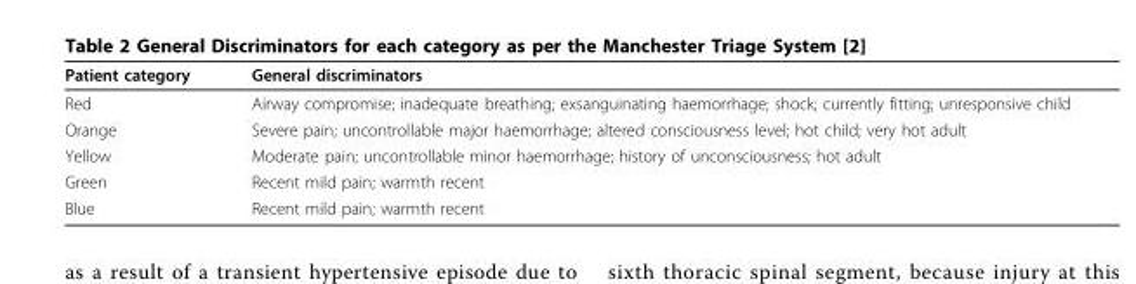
<table><thead><tr><td>Patient category</td><td>General discriminators</td></tr></thead><tbody><tr><td>Red</td><td>Airway compromise; inadequate breathing; exsanguinating haemorrhage; shock; currently fitting; unresponsive child</td></tr><tr><td>Orange</td><td>Severe pain; uncontrollable major haemorrhage; altered consciousness level; hot child; very hot adult</td></tr><tr><td>Yellow</td><td>Moderate pain; uncontrollable minor haemorrhage; history of unconsciousness; hot adult</td></tr><tr><td>Green</td><td>Recent mild pain; warmth recent</td></tr><tr><td>Blue</td><td>Recent mild pain; warmth recent</td></tr></tbody></table>